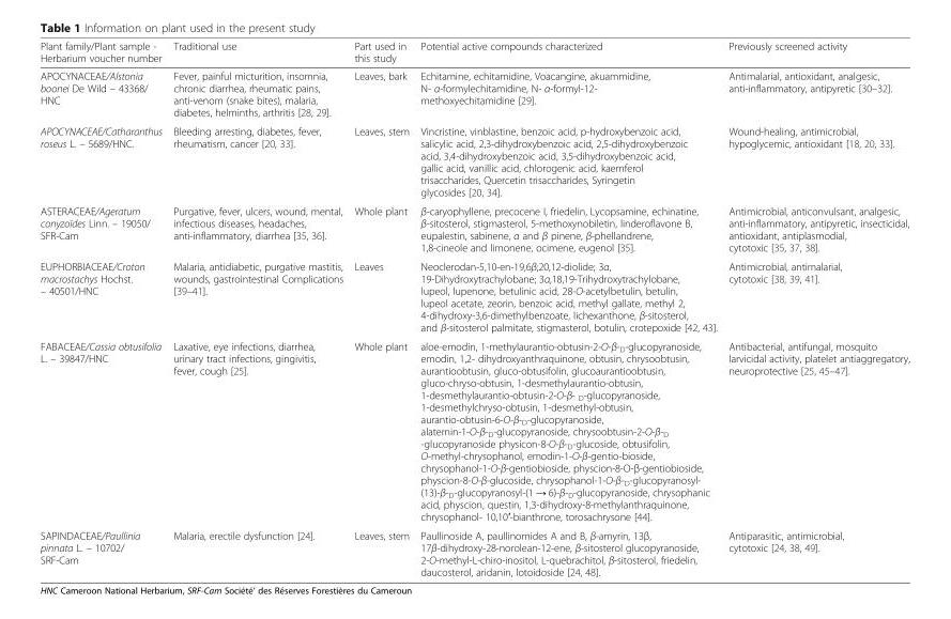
<table><thead><tr><td>Plant family/Plant sample - Herbarium voucher number</td><td>Traditional use</td><td>Part used in this study</td><td>Potential active compounds characterized</td><td>Previously screened activity</td></tr></thead><tbody><tr><td>APOCYNACEAE/Alstonia boonei De Wild – 43368/ HNC</td><td>Fever, painful micturition, insomnia, chronic diarrhea, rheumatic pains, anti-venom (snake bites), malaria, diabetes, helminths, arthritis [28, 29].</td><td>Leaves, bark</td><td>Echitamine, echitamidine, Voacangine, akuammidine, N- α-formylechitamidine, N- α-formyl-12- methoxyechitamidine [29].</td><td>Antimalarial, antioxidant, analgesic, anti-inflammatory, antipyretic [30–32].</td></tr><tr><td>APOCYNACEAE/Catharanthus roseus L. – 5689/HNC.</td><td>Bleeding arresting, diabetes, fever, rheumatism, cancer [20, 33].</td><td>Leaves, stem</td><td>Vincristine, vinblastine, benzoic acid, p-hydroxybenzoic acid, salicylic acid, 2,3-dihydroxybenzoic acid, 2,5-dihydroxybenzoic acid, 3,4-dihydroxybenzoic acid, 3,5-dihydroxybenzoic acid, gallic acid, vanillic acid, chlorogenic acid, kaemferol trisaccharides, Quercetin trisaccharides, Syringetin glycosides [20, 34].</td><td>Wound-healing, antimicrobial, hypoglycemic, antioxidant [18, 20, 33].</td></tr><tr><td>ASTERACEAE/Ageratum conyzoïdes Linn. – 19050/ SFR-Cam</td><td>Purgative, fever, ulcers, wound, mental, infectious diseases, headaches, anti-inflammatory, diarrhea [35, 36].</td><td>Whole plant</td><td>β-caryophyllene, precocene I, friedelin, Lycopsamine, echinatine, β-sitosterol, stigmasterol, 5-methoxynobiletin, linderoflavone B, eupalestin, sabinene, α and β pinene, β-phellandrene, 1,8-cineole and limonene, ocimene, eugenol [35].</td><td>Antimicrobial, anticonvulsant, analgesic, anti-inflammatory, antipyretic, insecticidal, antioxidant, antiplasmodial, cytotoxic [35, 37, 38].</td></tr><tr><td>EUPHORBIACEAE/Croton macrostachys Hochst. – 40501/HNC</td><td>Malaria, antidiabetic, purgative mastitis, wounds, gastrointestinal Complications [39–41].</td><td>Leaves</td><td>Neoclerodan-5,10-en-19,6β;20,12-diolide; 3α, 19-Dihydroxytrachylobane; 3α,18,19-Trihydroxytrachylobane, lupeol, lupenone, betulinic acid, 28-O-acetylbetulin, betulin, lupeol acetate, zeorin, benzoic acid, methyl gallate, methyl 2, 4-dihydroxy-3,6-dimethylbenzoate, lichexanthone, β-sitosterol, and β-sitosterol palmitate, stigmasterol, botulin, crotepoxide [42, 43].</td><td>Antimicrobial, antimalarial, cytotoxic [38, 39, 41].</td></tr><tr><td>FABACEAE/Cassia obtusifolia L. – 39847/HNC</td><td>Laxative, eye infections, diarrhea, urinary tract infections, gingivitis, fever, cough [25].</td><td>Whole plant</td><td>aloe-emodin, 1-methylaurantio-obtusin-2-O-β-<sub>D</sub>-glucopyranoside, emodin, 1,2- dihydroxyanthraquinone, obtusin, chrysoobtusin, aurantioobtusin, gluco-obtusifolin, glucoaurantioobtusin, gluco-chryso-obtusin, 1-desmethylaurantio-obtusin, 1-desmethylaurantio-obtusin-2-O-β- <sub>D</sub>-glucopyranoside, 1-desmethylchryso-obtusin, 1-desmethyl-obtusin, aurantio-obtusin-6-O-β-<sub>D</sub>-glucopyranoside, alaternin-1-O-β-<sub>D</sub>-glucopyranoside, chrysoobtusin-2-O-β-<sub>D</sub> -glucopyranoside physicon-8-O-β-<sub>D</sub>-glucoside, obtusifolin, O-methyl-chrysophanol, emodin-1-O-β-gentio-bioside, chrysophanol-1-O-β-gentiobioside, physcion-8-O-β-gentiobioside, physcion-8-O-β-glucoside, chrysophanol-1-O-β-<sub>D</sub>-glucopyranosyl- (13)-β-<sub>D</sub>-glucopyranosyl-(1 → 6)-β-<sub>D</sub>-glucopyranoside, chrysophanic acid, physcion, questin, 1,3-dihydroxy-8-methylanthraquinone, chrysophanol- 10,10′-bianthrone, torosachrysone [44].</td><td>Antibacterial, antifungal, mosquito larvicidal activity, platelet antiaggregatory, neuroprotective [25, 45–47].</td></tr><tr><td>SAPINDACEAE/Paullinia pinnata L. – 10702/ SRF-Cam</td><td>Malaria, erectile dysfunction [24].</td><td>Leaves, stem</td><td>Paullinoside A, paullinomides A and B, β-amyrin, 13β, 17β-dihydroxy-28-norolean-12-ene, β-sitosterol glucopyranoside, 2-O-methyl-L-chiro-inositol, L-quebrachitol, β-sitosterol, friedelin, daucosterol, aridanin, lotoidoside [24, 48].</td><td>Antiparasitic, antimicrobial, cytotoxic [24, 38, 49].</td></tr></tbody></table>